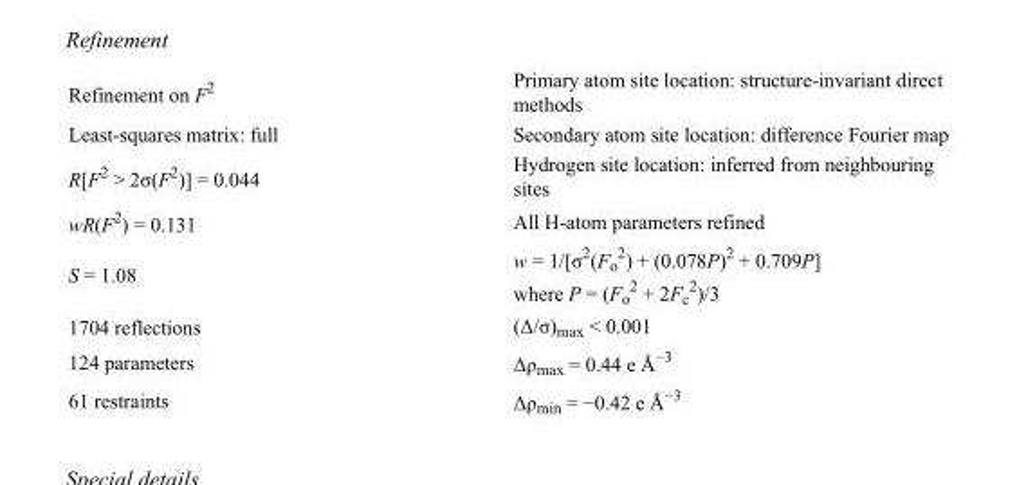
<table><tbody><tr><td>Refinement on F<sup>2</sup></td><td>Primary atom site location: structure-invariant direct methods</td></tr><tr><td>Least-squares matrix: full</td><td>Secondary atom site location: difference Fourier map</td></tr><tr><td>R[F<sup>2</sup> &gt; 2σ(F<sup>2</sup>)] = 0.044</td><td>Hydrogen site location: inferred from neighbouring sites</td></tr><tr><td>wR(F<sup>2</sup>) = 0.131</td><td>All H-atom parameters refined</td></tr><tr><td>S = 1.08</td><td>w = 1/[σ<sup>2</sup>(F<sub>o</sub> <sup>2</sup>) + (0.078P)<sup>2</sup> + 0.709P] where P = (F<sub>o</sub> <sup>2</sup> + 2F<sub>c</sub> <sup>2</sup>)/3</td></tr><tr><td>1704 reflections</td><td>(Δ/σ)<sub>max</sub> &lt; 0.001</td></tr><tr><td>124 parameters</td><td>Δρ<sub>max</sub> = 0.44 e Å<sup>−3</sup></td></tr><tr><td>61 restraints</td><td>Δρ<sub>min</sub> = −0.42 e Å<sup>−3</sup></td></tr></tbody></table>